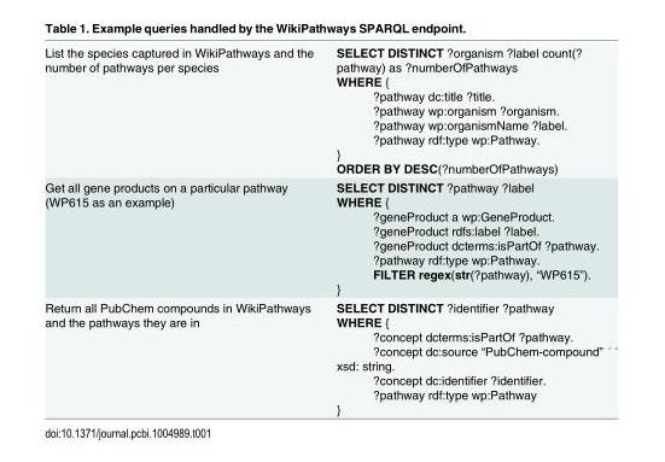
<table><tbody><tr><td>List the species captured in WikiPathways and the number of pathways per species</td><td>SELECT DISTINCT ?organism ?label count(? pathway) as ?numberOfPathways WHERE { ?pathway dc:title ?title. ?pathway wp:organism ?organism. ?pathway wp:organismName ?label. ?pathway rdf:type wp:Pathway. } ORDER BY DESC(?numberOfPathways)</td></tr><tr><td>Get all gene products on a particular pathway (WP615 as an example)</td><td>SELECT DISTINCT ?pathway ?label WHERE { ?geneProduct a wp:GeneProduct. ?geneProduct rdfs:label ?label. ?geneProduct dcterms:isPartOf ?pathway. ?pathway rdf:type wp:Pathway. FILTER regex(str(?pathway), “WP615”). }</td></tr><tr><td>Return all PubChem compounds in WikiPathways and the pathways they are in</td><td>SELECT DISTINCT ?identifier ?pathway WHERE { ?concept dcterms:isPartOf ?pathway. ?concept dc:source “PubChem-compound” ^^ xsd: string. ?concept dc:identifier ?identifier. ?pathway rdf:type wp:Pathway }</td></tr></tbody></table>